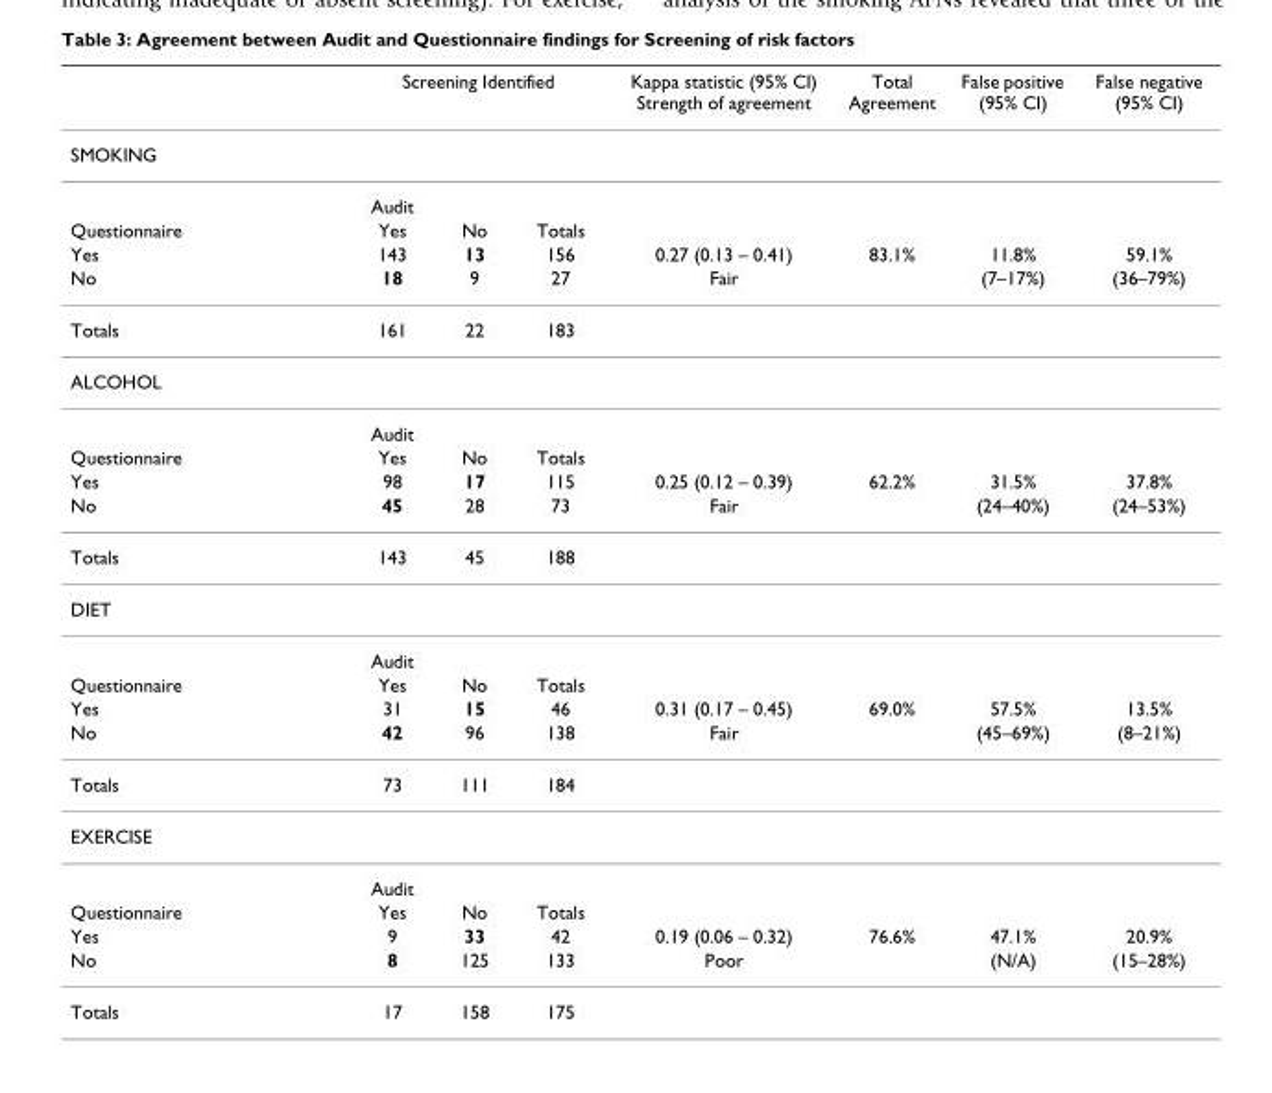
<table><thead><tr><td rowspan="2">SMOKING</td><td colspan="3">Screening Identified</td><td rowspan="2">Kappa statistic (95% CI) Strength of agreement</td><td rowspan="2">Total Agreement</td><td rowspan="2">False positive (95% CI)</td><td rowspan="2">False negative (95% CI)</td></tr><tr><td></td><td></td><td></td></tr></thead><tbody><tr><td></td><td>Audit</td><td></td><td></td><td></td><td></td><td></td><td></td></tr><tr><td>Questionnaire</td><td>Yes</td><td>No</td><td>Totals</td><td></td><td></td><td></td><td></td></tr><tr><td>Yes</td><td>143</td><td>13</td><td>156</td><td>0.27 (0.13 – 0.41)</td><td>83.1%</td><td>11.8%</td><td>59.1%</td></tr><tr><td>No</td><td>18</td><td>9</td><td>27</td><td>Fair</td><td></td><td>(7–17%)</td><td>(36–79%)</td></tr><tr><td>Totals</td><td>161</td><td>22</td><td>183</td><td></td><td></td><td></td><td></td></tr><tr><td colspan="8">ALCOHOL</td></tr><tr><td></td><td>Audit</td><td></td><td></td><td></td><td></td><td></td><td></td></tr><tr><td>Questionnaire</td><td>Yes</td><td>No</td><td>Totals</td><td></td><td></td><td></td><td></td></tr><tr><td>Yes</td><td>98</td><td>17</td><td>115</td><td>0.25 (0.12 – 0.39)</td><td>62.2%</td><td>31.5%</td><td>37.8%</td></tr><tr><td>No</td><td>45</td><td>28</td><td>73</td><td>Fair</td><td></td><td>(24–40%)</td><td>(24–53%)</td></tr><tr><td>Totals</td><td>143</td><td>45</td><td>188</td><td></td><td></td><td></td><td></td></tr><tr><td colspan="8">DIET</td></tr><tr><td></td><td>Audit</td><td></td><td></td><td></td><td></td><td></td><td></td></tr><tr><td>Questionnaire</td><td>Yes</td><td>No</td><td>Totals</td><td></td><td></td><td></td><td></td></tr><tr><td>Yes</td><td>31</td><td>15</td><td>46</td><td>0.31 (0.17 – 0.45)</td><td>69.0%</td><td>57.5%</td><td>13.5%</td></tr><tr><td>No</td><td>42</td><td>96</td><td>138</td><td>Fair</td><td></td><td>(45–69%)</td><td>(8–21%)</td></tr><tr><td>Totals</td><td>73</td><td>111</td><td>184</td><td></td><td></td><td></td><td></td></tr><tr><td colspan="8">EXERCISE</td></tr><tr><td></td><td>Audit</td><td></td><td></td><td></td><td></td><td></td><td></td></tr><tr><td>Questionnaire</td><td>Yes</td><td>No</td><td>Totals</td><td></td><td></td><td></td><td></td></tr><tr><td>Yes</td><td>9</td><td>33</td><td>42</td><td>0.19 (0.06 – 0.32)</td><td>76.6%</td><td>47.1%</td><td>20.9%</td></tr><tr><td>No</td><td>8</td><td>125</td><td>133</td><td>Poor</td><td></td><td>(N/A)</td><td>(15–28%)</td></tr><tr><td>Totals</td><td>17</td><td>158</td><td>175</td><td></td><td></td><td></td><td></td></tr></tbody></table>